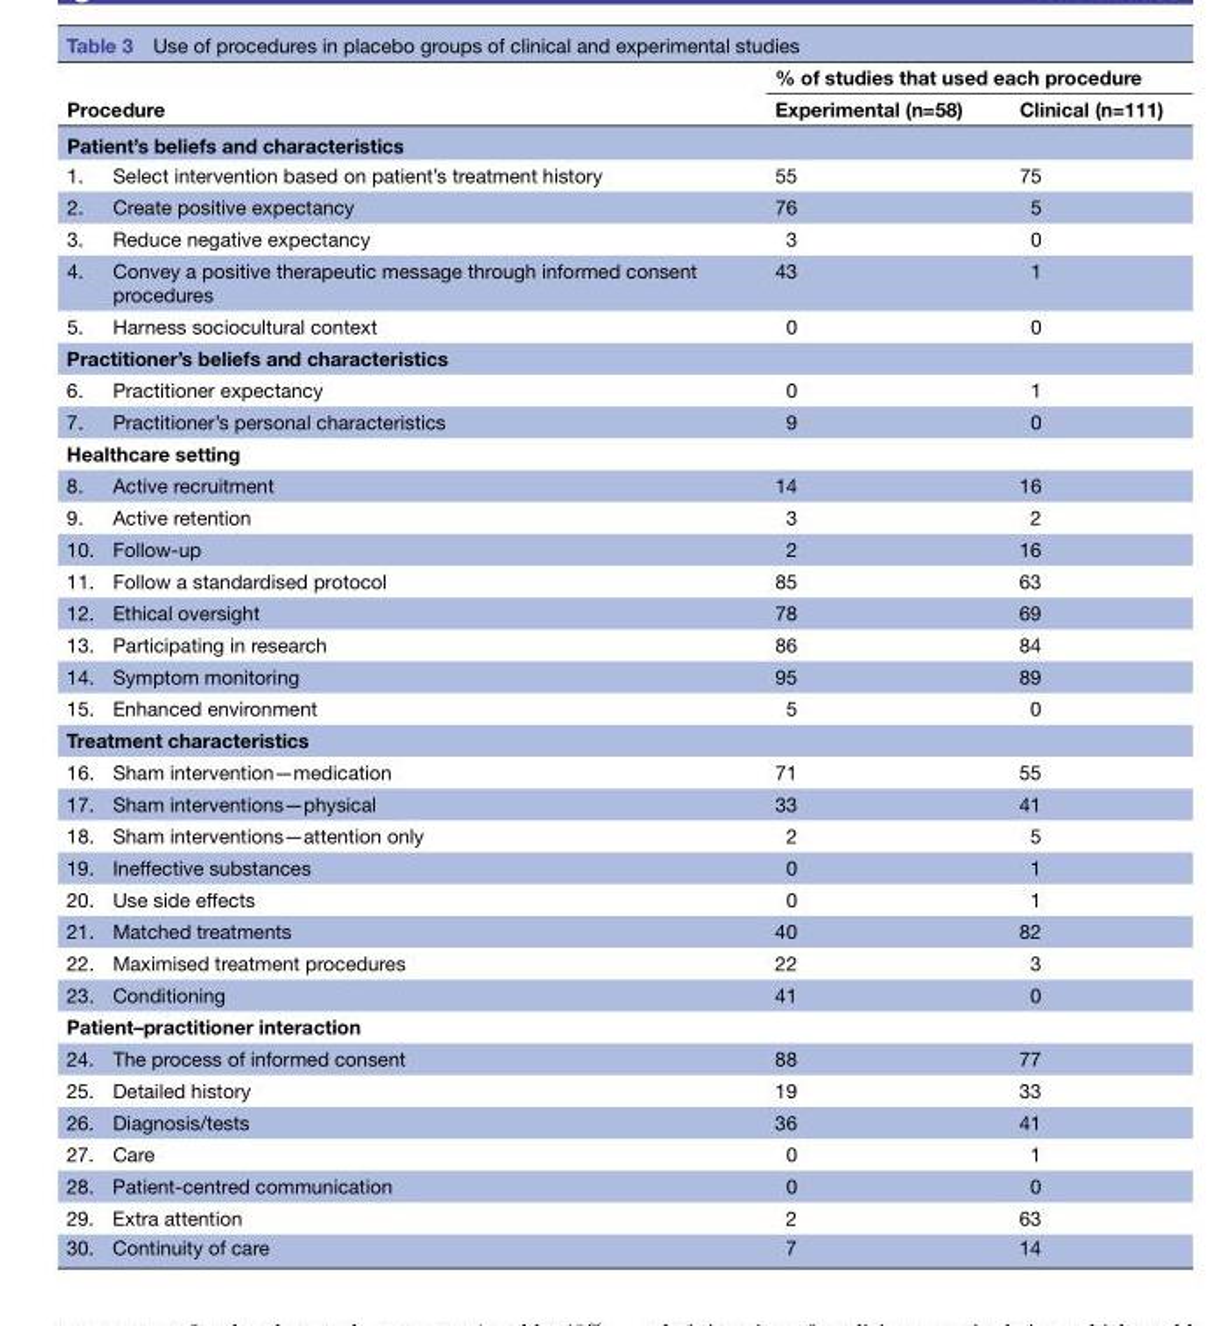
<table><thead><tr><td rowspan="2" colspan="2">Procedure</td><td colspan="2">% of studies that used each procedure</td></tr><tr><td>Experimental (n=58)</td><td>Clinical (n=111)</td></tr><tr><td colspan="4">Patient’s beliefs and characteristics</td></tr><tr><td>1.</td><td>Select intervention based on patient’s treatment history</td><td>55</td><td>75</td></tr></thead><tbody><tr><td>2.</td><td>Create positive expectancy</td><td>76</td><td>5</td></tr><tr><td>3.</td><td>Reduce negative expectancy</td><td>3</td><td>0</td></tr><tr><td>4.</td><td>Convey a positive therapeutic message through informed consent procedures</td><td>43</td><td>1</td></tr><tr><td>5.</td><td>Harness sociocultural context</td><td>0</td><td>0</td></tr><tr><td colspan="4">Practitioner’s beliefs and characteristics</td></tr><tr><td>6.</td><td>Practitioner expectancy</td><td>0</td><td>1</td></tr><tr><td>7.</td><td>Practitioner’s personal characteristics</td><td>9</td><td>0</td></tr><tr><td colspan="4">Healthcare setting</td></tr><tr><td>8.</td><td>Active recruitment</td><td>14</td><td>16</td></tr><tr><td>9.</td><td>Active retention</td><td>3</td><td>2</td></tr><tr><td>10.</td><td>Follow-up</td><td>2</td><td>16</td></tr><tr><td>11.</td><td>Follow a standardised protocol</td><td>85</td><td>63</td></tr><tr><td>12.</td><td>Ethical oversight</td><td>78</td><td>69</td></tr><tr><td>13.</td><td>Participating in research</td><td>86</td><td>84</td></tr><tr><td>14.</td><td>Symptom monitoring</td><td>95</td><td>89</td></tr><tr><td>15.</td><td>Enhanced environment</td><td>5</td><td>0</td></tr><tr><td colspan="4">Treatment characteristics</td></tr><tr><td>16.</td><td>Sham intervention—medication</td><td>71</td><td>55</td></tr><tr><td>17.</td><td>Sham interventions—physical</td><td>33</td><td>41</td></tr><tr><td>18.</td><td>Sham interventions—attention only</td><td>2</td><td>5</td></tr><tr><td>19.</td><td>Ineffective substances</td><td>0</td><td>1</td></tr><tr><td>20.</td><td>Use side effects</td><td>0</td><td>1</td></tr><tr><td>21.</td><td>Matched treatments</td><td>40</td><td>82</td></tr><tr><td>22.</td><td>Maximised treatment procedures</td><td>22</td><td>3</td></tr><tr><td>23.</td><td>Conditioning</td><td>41</td><td>0</td></tr><tr><td colspan="4">Patient–practitioner interaction</td></tr><tr><td>24.</td><td>The process of informed consent</td><td>88</td><td>77</td></tr><tr><td>25.</td><td>Detailed history</td><td>19</td><td>33</td></tr><tr><td>26.</td><td>Diagnosis/tests</td><td>36</td><td>41</td></tr><tr><td>27.</td><td>Care</td><td>0</td><td>1</td></tr><tr><td>28.</td><td>Patient-centred communication</td><td>0</td><td>0</td></tr><tr><td>29.</td><td>Extra attention</td><td>2</td><td>63</td></tr><tr><td>30.</td><td>Continuity of care</td><td>7</td><td>14</td></tr></tbody></table>